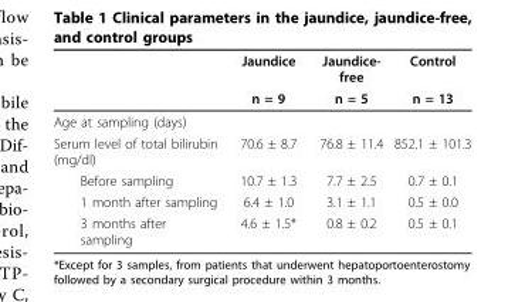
<table><thead><tr><td rowspan="2"></td><td rowspan="2">Jaundice n = 9</td><td rowspan="2">Jaundice- free n = 5</td><td rowspan="2">Control n = 13</td></tr><tr></tr></thead><tbody><tr><td colspan="4">Age at sampling (days)</td></tr><tr><td>Serum level of total bilirubin (mg/dl)</td><td>70.6 ± 8.7</td><td>76.8 ± 11.4</td><td>852.1 ± 101.3</td></tr><tr><td>Before sampling</td><td>10.7 ± 1.3</td><td>7.7 ± 2.5</td><td>0.7 ± 0.1</td></tr><tr><td>1 month after sampling</td><td>6.4 ± 1.0</td><td>3.1 ± 1.1</td><td>0.5 ± 0.0</td></tr><tr><td>3 months after sampling</td><td>4.6 ± 1.5*</td><td>0.8 ± 0.2</td><td>0.5 ± 0.1</td></tr></tbody></table>